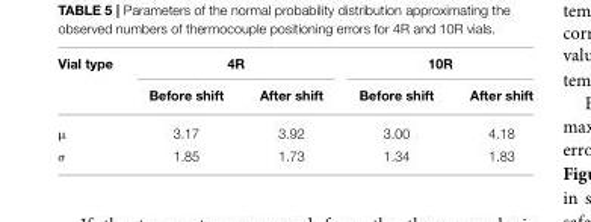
<table><thead><tr><td rowspan="2">Vial type</td><td colspan="2">4R</td><td colspan="2">10R</td></tr><tr><td>Before shift</td><td>After shift</td><td>Before shift</td><td>After shift</td></tr></thead><tbody><tr><td>µ</td><td>3.17</td><td>3.92</td><td>3.00</td><td>4.18</td></tr><tr><td>σ</td><td>1.85</td><td>1.73</td><td>1.34</td><td>1.83</td></tr></tbody></table>